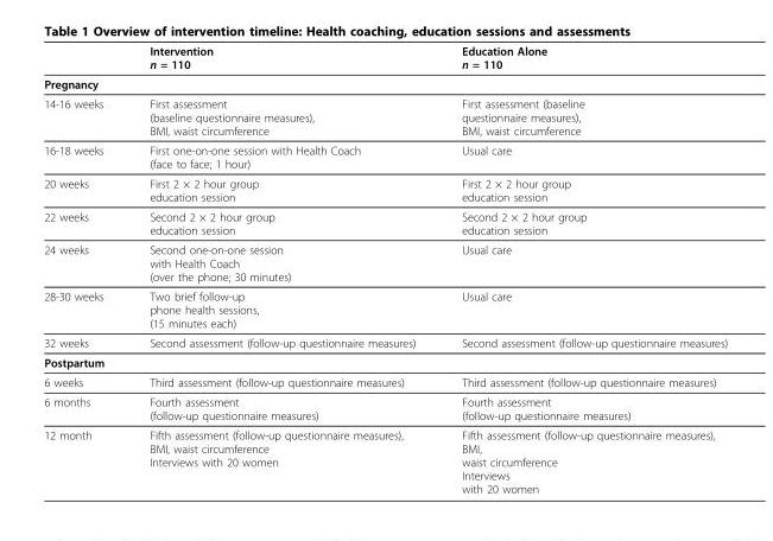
<table><thead><tr><td></td><td>Intervention n = 110</td><td>Education Alone n = 110</td></tr></thead><tbody><tr><td colspan="3">Pregnancy</td></tr><tr><td>14-16 weeks</td><td>First assessment (baseline questionnaire measures), BMI, waist circumference</td><td>First assessment (baseline questionnaire measures), BMI, waist circumference</td></tr><tr><td>16-18 weeks</td><td>First one-on-one session with Health Coach (face to face; 1 hour)</td><td>Usual care</td></tr><tr><td>20 weeks</td><td>First 2 × 2 hour group education session</td><td>First 2 × 2 hour group education session</td></tr><tr><td>22 weeks</td><td>Second 2 × 2 hour group education session</td><td>Second 2 × 2 hour group education session</td></tr><tr><td>24 weeks</td><td>Second one-on-one session with Health Coach (over the phone; 30 minutes)</td><td>Usual care</td></tr><tr><td>28-30 weeks</td><td>Two brief follow-up phone health sessions, (15 minutes each)</td><td>Usual care</td></tr><tr><td>32 weeks</td><td>Second assessment (follow-up questionnaire measures)</td><td>Second assessment (follow-up questionnaire measures)</td></tr><tr><td colspan="3">Postpartum</td></tr><tr><td>6 weeks</td><td>Third assessment (follow-up questionnaire measures)</td><td>Third assessment (follow-up questionnaire measures)</td></tr><tr><td>6 months</td><td>Fourth assessment (follow-up questionnaire measures)</td><td>Fourth assessment (follow-up questionnaire measures)</td></tr><tr><td>12 month</td><td>Fifth assessment (follow-up questionnaire measures), BMI, waist circumference Interviews with 20 women</td><td>Fifth assessment (follow-up questionnaire measures), BMI, waist circumference Interviews with 20 women</td></tr></tbody></table>